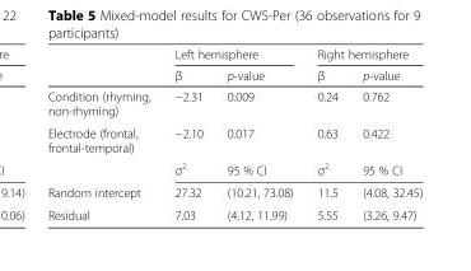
<table><thead><tr><td rowspan="2"></td><td colspan="2">Left hemisphere</td><td colspan="2">Right hemisphere</td></tr><tr><td>β</td><td>p-value</td><td>β</td><td>p-value</td></tr></thead><tbody><tr><td>Condition (rhyming, non-rhyming)</td><td>−2.31</td><td>0.009</td><td>0.24</td><td>0.762</td></tr><tr><td rowspan="2">Electrode (frontal, frontal-temporal)</td><td>−2.10</td><td>0.017</td><td>0.63</td><td>0.422</td></tr><tr><td>σ<sup>2</sup></td><td>95 % CI</td><td>σ<sup>2</sup></td><td>95 % CI</td></tr><tr><td>Random intercept</td><td>27.32</td><td>(10.21, 73.08)</td><td>11.5</td><td>(4.08, 32.45)</td></tr><tr><td>Residual</td><td>7.03</td><td>(4.12, 11.99)</td><td>5.55</td><td>(3.26, 9.47)</td></tr></tbody></table>